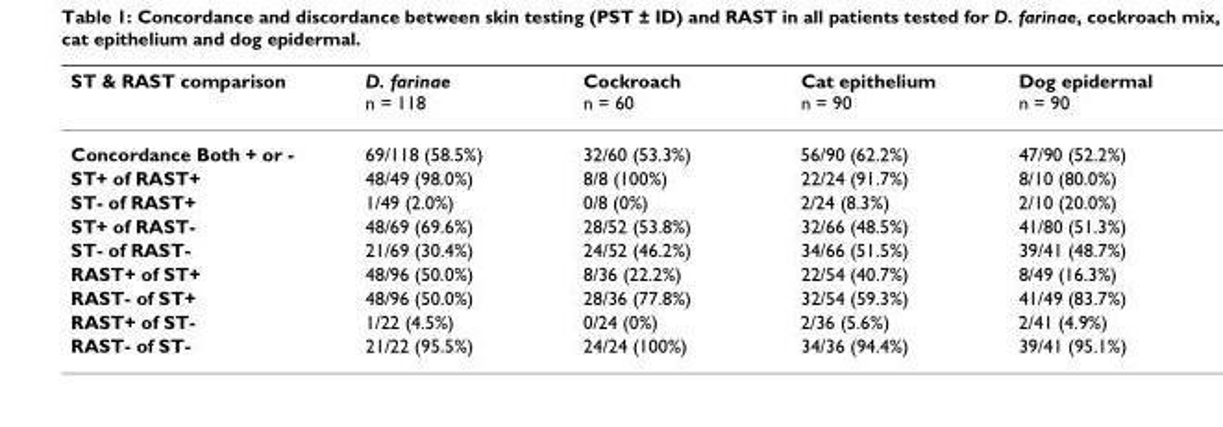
<table><thead><tr><td>ST &amp; RAST comparison</td><td>D. farinae n = 118</td><td>Cockroach n = 60</td><td>Cat epithelium n = 90</td><td>Dog epidermal n = 90</td></tr></thead><tbody><tr><td>Concordance Both + or -</td><td>69/118 (58.5%)</td><td>32/60 (53.3%)</td><td>56/90 (62.2%)</td><td>47/90 (52.2%)</td></tr><tr><td>ST+ of RAST+</td><td>48/49 (98.0%)</td><td>8/8 (100%)</td><td>22/24 (91.7%)</td><td>8/10 (80.0%)</td></tr><tr><td>ST- of RAST+</td><td>1/49 (2.0%)</td><td>0/8 (0%)</td><td>2/24 (8.3%)</td><td>2/10 (20.0%)</td></tr><tr><td>ST+ of RAST-</td><td>48/69 (69.6%)</td><td>28/52 (53.8%)</td><td>32/66 (48.5%)</td><td>41/80 (51.3%)</td></tr><tr><td>ST- of RAST-</td><td>21/69 (30.4%)</td><td>24/52 (46.2%)</td><td>34/66 (51.5%)</td><td>39/41 (48.7%)</td></tr><tr><td>RAST+ of ST+</td><td>48/96 (50.0%)</td><td>8/36 (22.2%)</td><td>22/54 (40.7%)</td><td>8/49 (16.3%)</td></tr><tr><td>RAST- of ST+</td><td>48/96 (50.0%)</td><td>28/36 (77.8%)</td><td>32/54 (59.3%)</td><td>41/49 (83.7%)</td></tr><tr><td>RAST+ of ST-</td><td>1/22 (4.5%)</td><td>0/24 (0%)</td><td>2/36 (5.6%)</td><td>2/41 (4.9%)</td></tr><tr><td>RAST- of ST-</td><td>21/22 (95.5%)</td><td>24/24 (100%)</td><td>34/36 (94.4%)</td><td>39/41 (95.1%)</td></tr></tbody></table>